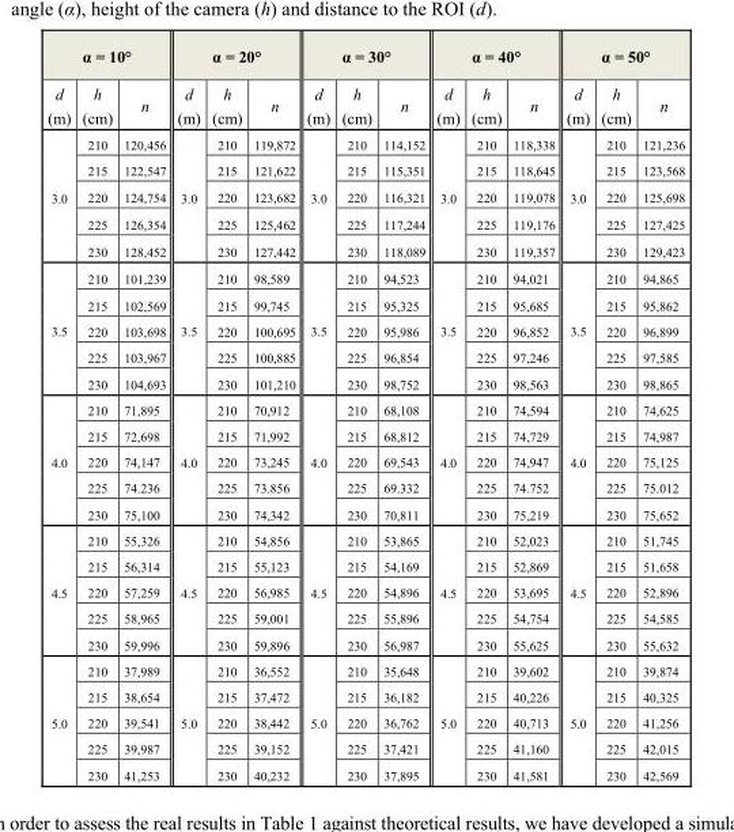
<table><thead><tr><td colspan="3">α = 10°</td><td colspan="3">α = 20°</td><td colspan="3">α = 30°</td><td colspan="3">α = 40°</td><td colspan="3">α = 50°</td></tr><tr><td>d (m)</td><td>h (cm)</td><td>n</td><td>d (m)</td><td>h (cm)</td><td>n</td><td>d (m)</td><td>h (cm)</td><td>n</td><td>d (m)</td><td>h (cm)</td><td>n</td><td>d (m)</td><td>h (cm)</td><td>n</td></tr></thead><tbody><tr><td rowspan="5">3.0</td><td>210</td><td>120,456</td><td rowspan="5">3.0</td><td>210</td><td>119,872</td><td rowspan="5">3.0</td><td>210</td><td>114,152</td><td rowspan="5">3.0</td><td>210</td><td>118,338</td><td rowspan="5">3.0</td><td>210</td><td>121,236</td></tr><tr><td>215</td><td>122,547</td><td>215</td><td>121,622</td><td>215</td><td>115,351</td><td>215</td><td>118,645</td><td>215</td><td>123,568</td></tr><tr><td>220</td><td>124,754</td><td>220</td><td>123,682</td><td>220</td><td>116,321</td><td>220</td><td>119,078</td><td>220</td><td>125,698</td></tr><tr><td>225</td><td>126,354</td><td>225</td><td>125,462</td><td>225</td><td>117,244</td><td>225</td><td>119,176</td><td>225</td><td>127,425</td></tr><tr><td>230</td><td>128,452</td><td>230</td><td>127,442</td><td>230</td><td>118,089</td><td>230</td><td>119,357</td><td>230</td><td>129,423</td></tr><tr><td rowspan="5">3.5</td><td>210</td><td>101,239</td><td rowspan="5">3.5</td><td>210</td><td>98,589</td><td rowspan="5">3.5</td><td>210</td><td>94,523</td><td rowspan="5">3.5</td><td>210</td><td>94,021</td><td rowspan="5">3.5</td><td>210</td><td>94,865</td></tr><tr><td>215</td><td>102,569</td><td>215</td><td>99,745</td><td>215</td><td>95,325</td><td>215</td><td>95,685</td><td>215</td><td>95,862</td></tr><tr><td>220</td><td>103,698</td><td>220</td><td>100,695</td><td>220</td><td>95,986</td><td>220</td><td>96,852</td><td>220</td><td>96,899</td></tr><tr><td>225</td><td>103,967</td><td>225</td><td>100,885</td><td>225</td><td>96,854</td><td>225</td><td>97,246</td><td>225</td><td>97,585</td></tr><tr><td>230</td><td>104,693</td><td>230</td><td>101,210</td><td>230</td><td>98,752</td><td>230</td><td>98,563</td><td>230</td><td>98,865</td></tr><tr><td rowspan="5">4.0</td><td>210</td><td>71,895</td><td rowspan="5">4.0</td><td>210</td><td>70,912</td><td rowspan="5">4.0</td><td>210</td><td>68,108</td><td rowspan="5">4.0</td><td>210</td><td>74,594</td><td rowspan="5">4.0</td><td>210</td><td>74,625</td></tr><tr><td>215</td><td>72,698</td><td>215</td><td>71,992</td><td>215</td><td>68,812</td><td>215</td><td>74,729</td><td>215</td><td>74,987</td></tr><tr><td>220</td><td>74,147</td><td>220</td><td>73,245</td><td>220</td><td>69,543</td><td>220</td><td>74,947</td><td>220</td><td>75,125</td></tr><tr><td>225</td><td>74.236</td><td>225</td><td>73.856</td><td>225</td><td>69.332</td><td>225</td><td>74.752</td><td>225</td><td>75.012</td></tr><tr><td>230</td><td>75,100</td><td>230</td><td>74,342</td><td>230</td><td>70,811</td><td>230</td><td>75,219</td><td>230</td><td>75,652</td></tr><tr><td rowspan="5">4.5</td><td>210</td><td>55,326</td><td rowspan="5">4.5</td><td>210</td><td>54,856</td><td rowspan="5">4.5</td><td>210</td><td>53,865</td><td rowspan="5">4.5</td><td>210</td><td>52,023</td><td rowspan="5">4.5</td><td>210</td><td>51,745</td></tr><tr><td>215</td><td>56,314</td><td>215</td><td>55,123</td><td>215</td><td>54,169</td><td>215</td><td>52,869</td><td>215</td><td>51,658</td></tr><tr><td>220</td><td>57,259</td><td>220</td><td>56,985</td><td>220</td><td>54,896</td><td>220</td><td>53,695</td><td>220</td><td>52,896</td></tr><tr><td>225</td><td>58,965</td><td>225</td><td>59,001</td><td>225</td><td>55,896</td><td>225</td><td>54,754</td><td>225</td><td>54,585</td></tr><tr><td>230</td><td>59,996</td><td>230</td><td>59,896</td><td>230</td><td>56,987</td><td>230</td><td>55,625</td><td>230</td><td>55,632</td></tr><tr><td rowspan="5">5.0</td><td>210</td><td>37,989</td><td rowspan="5">5.0</td><td>210</td><td>36,552</td><td rowspan="5">5.0</td><td>210</td><td>35,648</td><td rowspan="5">5.0</td><td>210</td><td>39,602</td><td rowspan="5">5.0</td><td>210</td><td>39,874</td></tr><tr><td>215</td><td>38,654</td><td>215</td><td>37,472</td><td>215</td><td>36,182</td><td>215</td><td>40,226</td><td>215</td><td>40,325</td></tr><tr><td>220</td><td>39,541</td><td>220</td><td>38,442</td><td>220</td><td>36,762</td><td>220</td><td>40,713</td><td>220</td><td>41,256</td></tr><tr><td>225</td><td>39,987</td><td>225</td><td>39,152</td><td>225</td><td>37,421</td><td>225</td><td>41,160</td><td>225</td><td>42,015</td></tr><tr><td>230</td><td>41,253</td><td>230</td><td>40,232</td><td>230</td><td>37,895</td><td>230</td><td>41,581</td><td>230</td><td>42,569</td></tr></tbody></table>